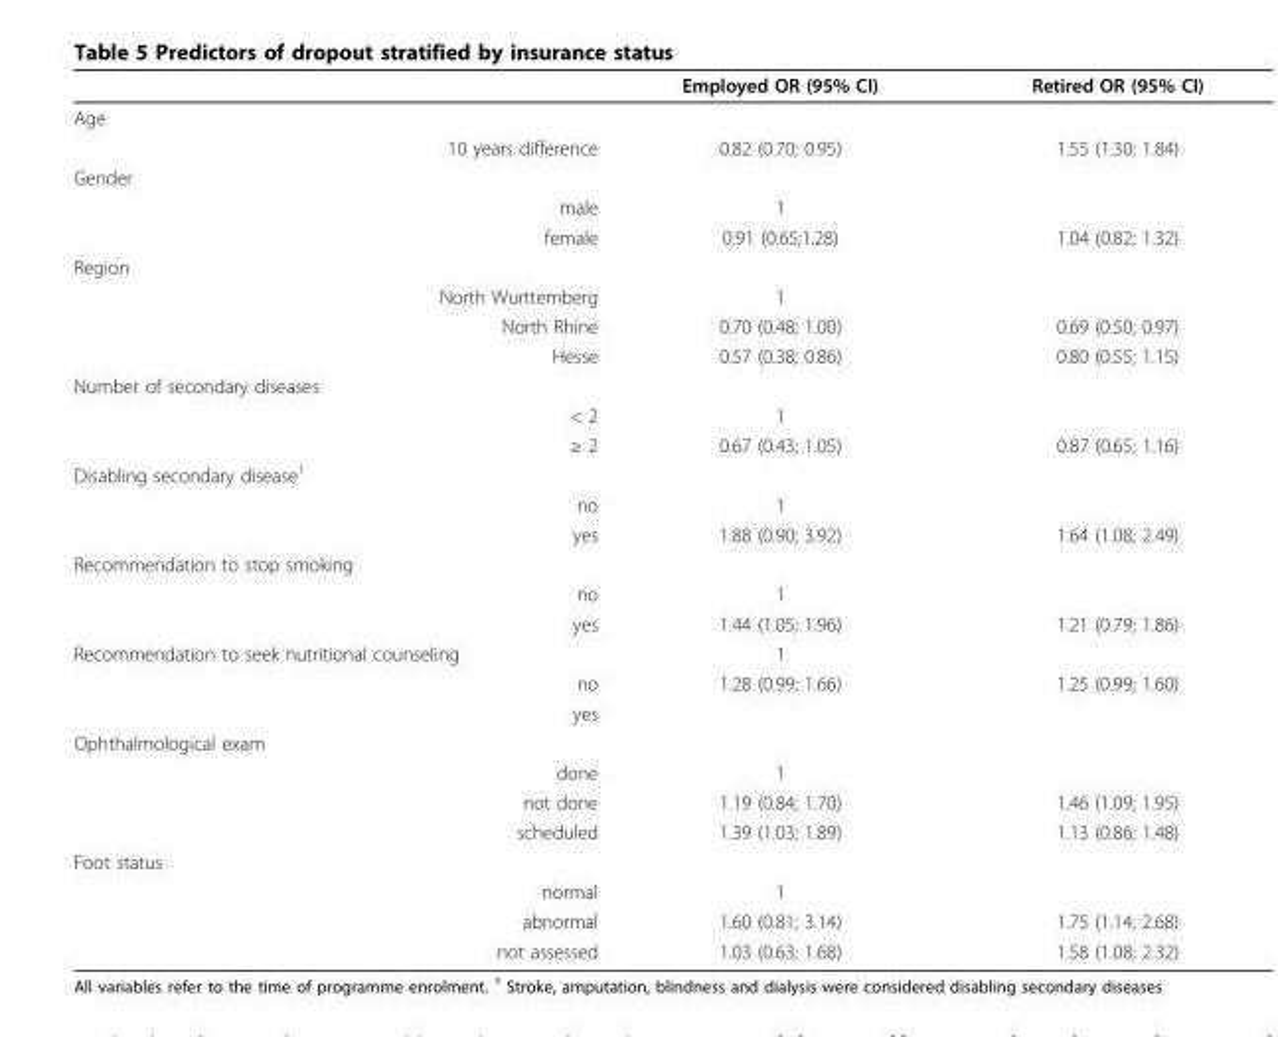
<table><thead><tr><td></td><td>Employed OR (95% CI)</td><td>Retired OR (95% CI)</td></tr></thead><tbody><tr><td colspan="3">Age</td></tr><tr><td>10 years difference</td><td>0.82 (0.70; 0.95)</td><td>1.55 (1.30; 1.84)</td></tr><tr><td colspan="3">Gender</td></tr><tr><td>male</td><td>1</td><td></td></tr><tr><td>female</td><td>0.91 (0.65;1.28)</td><td>1.04 (0.82; 1.32)</td></tr><tr><td colspan="3">Region</td></tr><tr><td>North Wurttemberg</td><td>1</td><td></td></tr><tr><td>North Rhine</td><td>0.70 (0.48; 1.00)</td><td>0.69 (0.50; 0.97)</td></tr><tr><td>Hesse</td><td>0.57 (0.38; 0.86)</td><td>0.80 (0.55; 1.15)</td></tr><tr><td colspan="3">Number of secondary diseases</td></tr><tr><td>&lt; 2</td><td>1</td><td></td></tr><tr><td>≥ 2</td><td>0.67 (0.43; 1.05)</td><td>0.87 (0.65; 1.16)</td></tr><tr><td colspan="3">Disabling secondary disease<sup>1</sup></td></tr><tr><td>no</td><td>1</td><td></td></tr><tr><td>yes</td><td>1.88 (0.90; 3.92)</td><td>1.64 (1.08; 2.49)</td></tr><tr><td colspan="3">Recommendation to stop smoking</td></tr><tr><td>no</td><td>1</td><td></td></tr><tr><td>yes</td><td>1.44 (1.05; 1.96)</td><td>1.21 (0.79; 1.86)</td></tr><tr><td>Recommendation to seek nutritional counseling</td><td>1</td><td></td></tr><tr><td>no</td><td>1.28 (0.99; 1.66)</td><td>1.25 (0.99; 1.60)</td></tr><tr><td colspan="3">yes</td></tr><tr><td colspan="3">Ophthalmological exam</td></tr><tr><td>done</td><td>1</td><td></td></tr><tr><td>not done</td><td>1.19 (0.84; 1.70)</td><td>1.46 (1.09; 1.95)</td></tr><tr><td>scheduled</td><td>1.39 (1.03; 1.89)</td><td>1.13 (0.86; 1.48)</td></tr><tr><td colspan="3">Foot status</td></tr><tr><td>normal</td><td>1</td><td></td></tr><tr><td>abnormal</td><td>1.60 (0.81; 3.14)</td><td>1.75 (1.14; 2.68)</td></tr><tr><td>not assessed</td><td>1.03 (0.63; 1.68)</td><td>1.58 (1.08; 2.32)</td></tr></tbody></table>